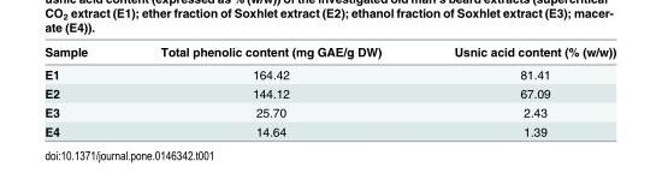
<table><thead><tr><td>Sample</td><td>Total phenolic content (mg GAE/g DW)</td><td>Usnic acid content (% (w/w))</td></tr></thead><tbody><tr><td>E1</td><td>164.42</td><td>81.41</td></tr><tr><td>E2</td><td>144.12</td><td>67.09</td></tr><tr><td>E3</td><td>25.70</td><td>2.43</td></tr><tr><td>E4</td><td>14.64</td><td>1.39</td></tr></tbody></table>